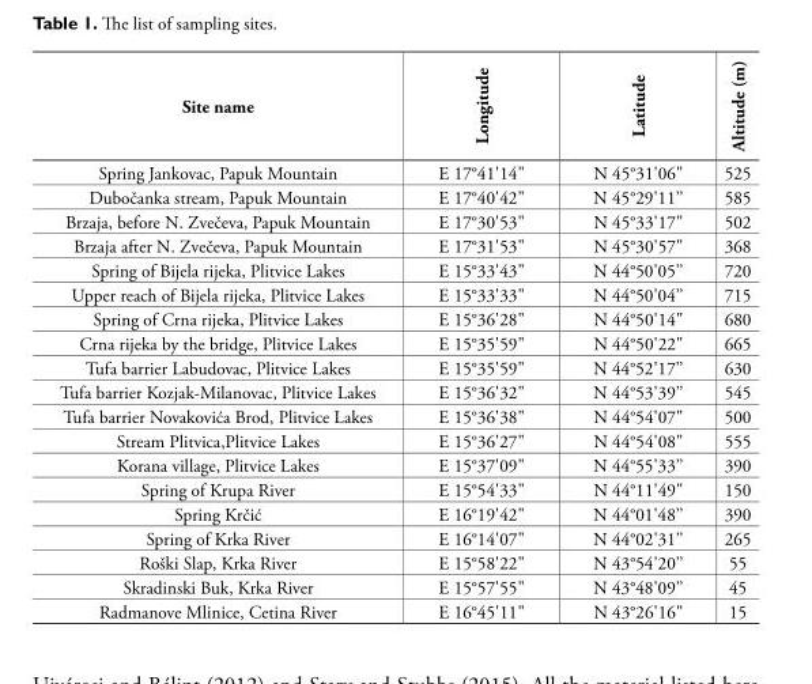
<table><thead><tr><td>Site name</td><td>Longitude</td><td>Latitude</td><td>Altitude (m)</td></tr></thead><tbody><tr><td>Spring Jankovac, Papuk Mountain</td><td>E 17°41&#x27;14&quot;</td><td>N 45°31&#x27;06&quot;</td><td>525</td></tr><tr><td>Dubočanka stream, Papuk Mountain</td><td>E 17°40&#x27;42&quot;</td><td>N 45°29&#x27;11’’</td><td>585</td></tr><tr><td>Brzaja, before N. Zvečeva, Papuk Mountain</td><td>E 17°30&#x27;53&quot;</td><td>N 45°33&#x27;17&quot;</td><td>502</td></tr><tr><td>Brzaja after N. Zvečeva, Papuk Mountain</td><td>E 17°31&#x27;53&quot;</td><td>N 45°30&#x27;57&quot;</td><td>368</td></tr><tr><td>Spring of Bijela rijeka, Plitvice Lakes</td><td>E 15°33&#x27;43&quot;</td><td>N 44°50&#x27;05’’</td><td>720</td></tr><tr><td>Upper reach of Bijela rijeka, Plitvice Lakes</td><td>E 15°33&#x27;33&quot;</td><td>N 44°50&#x27;04’’</td><td>715</td></tr><tr><td>Spring of Crna rijeka, Plitvice Lakes</td><td>E 15°36&#x27;28&quot;</td><td>N 44°50&#x27;14&quot;</td><td>680</td></tr><tr><td>Crna rijeka by the bridge, Plitvice Lakes</td><td>E 15°35&#x27;59&quot;</td><td>N 44°50&#x27;22&quot;</td><td>665</td></tr><tr><td>Tufa barrier Labudovac, Plitvice Lakes</td><td>E 15°35&#x27;59&quot;</td><td>N 44°52&#x27;17’’</td><td>630</td></tr><tr><td>Tufa barrier Kozjak-Milanovac, Plitvice Lakes</td><td>E 15°36&#x27;32&quot;</td><td>N 44°53&#x27;39’’</td><td>545</td></tr><tr><td>Tufa barrier Novakovića Brod, Plitvice Lakes</td><td>E 15°36&#x27;38&quot;</td><td>N 44°54&#x27;07&quot;</td><td>500</td></tr><tr><td>Stream Plitvica,Plitvice Lakes</td><td>E 15°36&#x27;27&quot;</td><td>N 44°54&#x27;08&quot;</td><td>555</td></tr><tr><td>Korana village, Plitvice Lakes</td><td>E 15°37&#x27;09&quot;</td><td>N 44°55&#x27;33’’</td><td>390</td></tr><tr><td>Spring of Krupa River</td><td>E 15°54&#x27;33&quot;</td><td>N 44°11&#x27;49&quot;</td><td>150</td></tr><tr><td>Spring Krčić</td><td>E 16°19&#x27;42&quot;</td><td>N 44°01&#x27;48’’</td><td>390</td></tr><tr><td>Spring of Krka River</td><td>E 16°14&#x27;07&quot;</td><td>N 44°02&#x27;31’’</td><td>265</td></tr><tr><td>Roški Slap, Krka River</td><td>E 15°58&#x27;22&quot;</td><td>N 43°54&#x27;20’’</td><td>55</td></tr><tr><td>Skradinski Buk, Krka River</td><td>E 15°57&#x27;55&quot;</td><td>N 43°48&#x27;09’’</td><td>45</td></tr><tr><td>Radmanove Mlinice, Cetina River</td><td>E 16°45&#x27;11&quot;</td><td>N 43°26&#x27;16&quot;</td><td>15</td></tr></tbody></table>